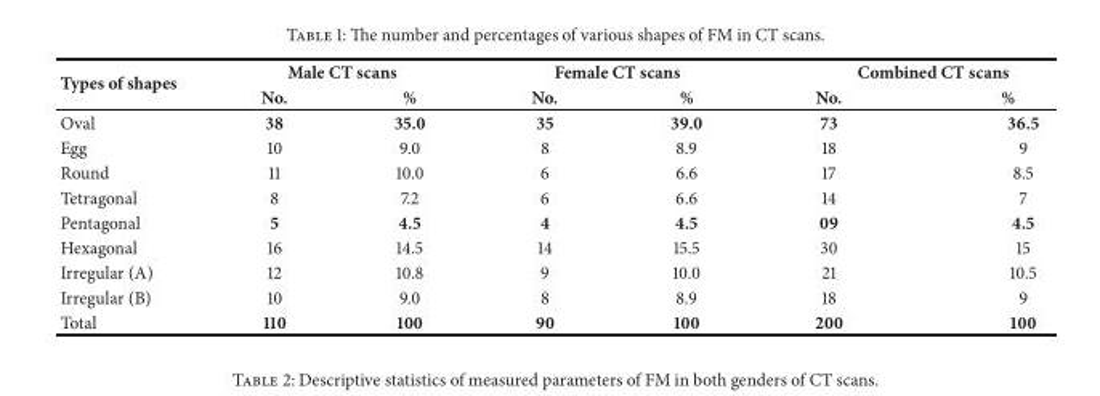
<table><thead><tr><td rowspan="2">Types of shapes</td><td colspan="2">Male CT scans</td><td colspan="2">Female CT scans</td><td colspan="2">Combined CT scans</td></tr><tr><td>No.</td><td>%</td><td>No.</td><td>%</td><td>No.</td><td>%</td></tr></thead><tbody><tr><td>Oval</td><td>38</td><td>35.0</td><td>35</td><td>39.0</td><td>73</td><td>36.5</td></tr><tr><td>Egg</td><td>10</td><td>9.0</td><td>8</td><td>8.9</td><td>18</td><td>9</td></tr><tr><td>Round</td><td>11</td><td>10.0</td><td>6</td><td>6.6</td><td>17</td><td>8.5</td></tr><tr><td>Tetragonal</td><td>8</td><td>7.2</td><td>6</td><td>6.6</td><td>14</td><td>7</td></tr><tr><td>Pentagonal</td><td>5</td><td>4.5</td><td>4</td><td>4.5</td><td>09</td><td>4.5</td></tr><tr><td>Hexagonal</td><td>16</td><td>14.5</td><td>14</td><td>15.5</td><td>30</td><td>15</td></tr><tr><td>Irregular (A)</td><td>12</td><td>10.8</td><td>9</td><td>10.0</td><td>21</td><td>10.5</td></tr><tr><td>Irregular (B)</td><td>10</td><td>9.0</td><td>8</td><td>8.9</td><td>18</td><td>9</td></tr><tr><td>Total</td><td>110</td><td>100</td><td>90</td><td>100</td><td>200</td><td>100</td></tr></tbody></table>